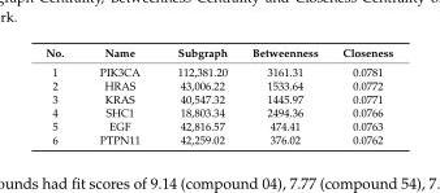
<table><thead><tr><td>No.</td><td>Name</td><td>Subgraph</td><td>Betweenness</td><td>Closeness</td></tr></thead><tbody><tr><td>1</td><td>PIK3CA</td><td>112,381.20</td><td>3161.31</td><td>0.0781</td></tr><tr><td>2</td><td>HRAS</td><td>43,006.22</td><td>1533.64</td><td>0.0772</td></tr><tr><td>3</td><td>KRAS</td><td>40,547.32</td><td>1445.97</td><td>0.0771</td></tr><tr><td>4</td><td>SHC1</td><td>18,803.34</td><td>2494.36</td><td>0.0766</td></tr><tr><td>5</td><td>EGF</td><td>42,816.57</td><td>474.41</td><td>0.0763</td></tr><tr><td>6</td><td>PTPN11</td><td>42,259.02</td><td>376.02</td><td>0.0762</td></tr></tbody></table>